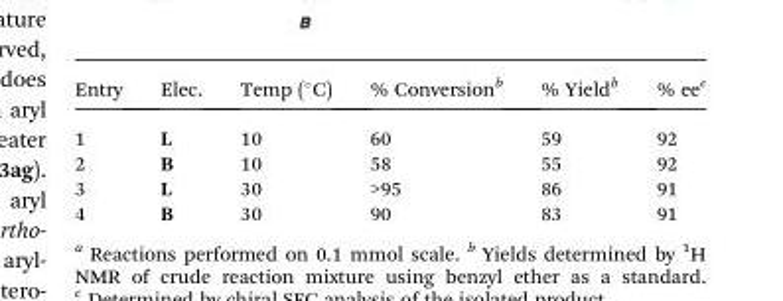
<table><thead><tr><td>Entry</td><td>Elec.</td><td>Temp (°C)</td><td>% Conversion<sup>b</sup></td><td>% Yield<sup>b</sup></td><td>% ee<sup>c</sup></td></tr></thead><tbody><tr><td>1</td><td>L</td><td>10</td><td>60</td><td>59</td><td>92</td></tr><tr><td>2</td><td>B</td><td>10</td><td>58</td><td>55</td><td>92</td></tr><tr><td>3</td><td>L</td><td>30</td><td>&gt;95</td><td>86</td><td>91</td></tr><tr><td>4</td><td>B</td><td>30</td><td>90</td><td>83</td><td>91</td></tr></tbody></table>